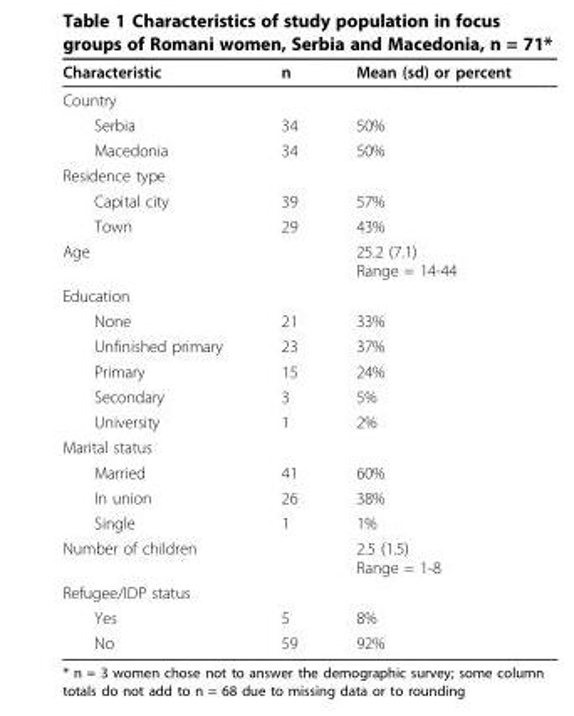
<table><thead><tr><td>Characteristic</td><td>n</td><td>Mean (sd) or percent</td></tr></thead><tbody><tr><td colspan="3">Country</td></tr><tr><td>Serbia</td><td>34</td><td>50%</td></tr><tr><td>Macedonia</td><td>34</td><td>50%</td></tr><tr><td colspan="3">Residence type</td></tr><tr><td>Capital city</td><td>39</td><td>57%</td></tr><tr><td>Town</td><td>29</td><td>43%</td></tr><tr><td>Age</td><td></td><td>25.2 (7.1) Range = 14-44</td></tr><tr><td colspan="3">Education</td></tr><tr><td>None</td><td>21</td><td>33%</td></tr><tr><td>Unfinished primary</td><td>23</td><td>37%</td></tr><tr><td>Primary</td><td>15</td><td>24%</td></tr><tr><td>Secondary</td><td>3</td><td>5%</td></tr><tr><td>University</td><td>1</td><td>2%</td></tr><tr><td colspan="3">Marital status</td></tr><tr><td>Married</td><td>41</td><td>60%</td></tr><tr><td>In union</td><td>26</td><td>38%</td></tr><tr><td>Single</td><td>1</td><td>1%</td></tr><tr><td>Number of children</td><td></td><td>2.5 (1.5) Range = 1-8</td></tr><tr><td colspan="3">Refugee/IDP status</td></tr><tr><td>Yes</td><td>5</td><td>8%</td></tr><tr><td>No</td><td>59</td><td>92%</td></tr></tbody></table>